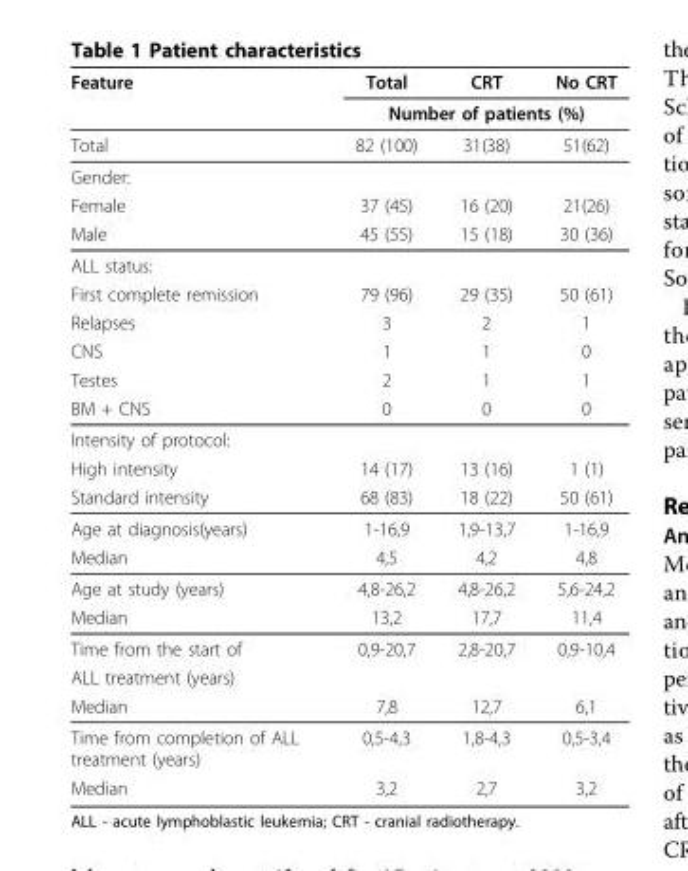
<table><thead><tr><td rowspan="2">Feature</td><td>Total</td><td>CRT</td><td>No CRT</td></tr><tr><td colspan="3">Number of patients (%)</td></tr></thead><tbody><tr><td>Total</td><td>82 (100)</td><td>31(38)</td><td>51(62)</td></tr><tr><td colspan="4">Gender:</td></tr><tr><td>Female</td><td>37 (45)</td><td>16 (20)</td><td>21(26)</td></tr><tr><td>Male</td><td>45 (55)</td><td>15 (18)</td><td>30 (36)</td></tr><tr><td colspan="4">ALL status:</td></tr><tr><td>First complete remission</td><td>79 (96)</td><td>29 (35)</td><td>50 (61)</td></tr><tr><td>Relapses</td><td>3</td><td>2</td><td>1</td></tr><tr><td>CNS</td><td>1</td><td>1</td><td>0</td></tr><tr><td>Testes</td><td>2</td><td>1</td><td>1</td></tr><tr><td>BM + CNS</td><td>0</td><td>0</td><td>0</td></tr><tr><td colspan="4">Intensity of protocol:</td></tr><tr><td>High intensity</td><td>14 (17)</td><td>13 (16)</td><td>1 (1)</td></tr><tr><td>Standard intensity</td><td>68 (83)</td><td>18 (22)</td><td>50 (61)</td></tr><tr><td>Age at diagnosis(years)</td><td>1-16,9</td><td>1,9-13,7</td><td>1-16,9</td></tr><tr><td>Median</td><td>4,5</td><td>4,2</td><td>4,8</td></tr><tr><td>Age at study (years)</td><td>4,8-26,2</td><td>4,8-26,2</td><td>5,6-24,2</td></tr><tr><td>Median</td><td>13,2</td><td>17,7</td><td>11,4</td></tr><tr><td>Time from the start of</td><td>0,9-20,7</td><td>2,8-20,7</td><td>0,9-10,4</td></tr><tr><td colspan="4">ALL treatment (years)</td></tr><tr><td>Median</td><td>7,8</td><td>12,7</td><td>6,1</td></tr><tr><td>Time from completion of ALL treatment (years)</td><td>0,5-4,3</td><td>1,8-4,3</td><td>0,5-3,4</td></tr><tr><td>Median</td><td>3,2</td><td>2,7</td><td>3,2</td></tr></tbody></table>